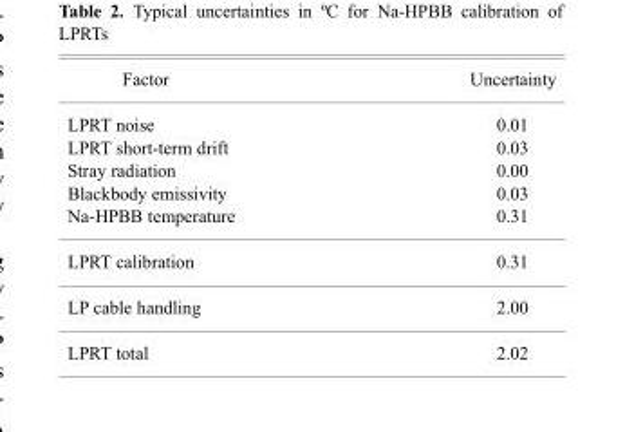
<table><thead><tr><td>Factor</td><td>Uncertainty</td></tr></thead><tbody><tr><td>LPRT noise</td><td>0.01</td></tr><tr><td>LPRT short-term drift</td><td>0.03</td></tr><tr><td>Stray radiation</td><td>0.00</td></tr><tr><td>Blackbody emissivity</td><td>0.03</td></tr><tr><td>Na-HPBB temperature</td><td>0.31</td></tr><tr><td>LPRT calibration</td><td>0.31</td></tr><tr><td>LP cable handling</td><td>2.00</td></tr><tr><td>LPRT total</td><td>2.02</td></tr></tbody></table>